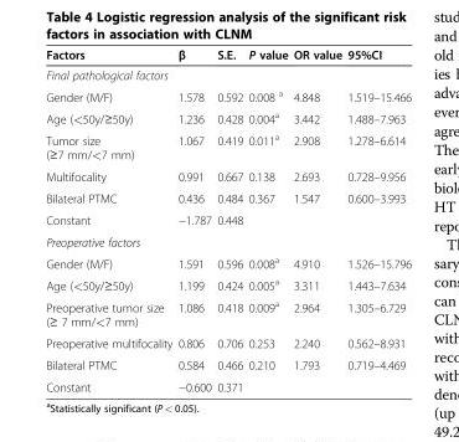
<table><thead><tr><td>Factors</td><td>β</td><td>S.E.</td><td>P value</td><td>OR value</td><td>95%CI</td></tr></thead><tbody><tr><td colspan="6">Final pathological factors</td></tr><tr><td>Gender (M/F)</td><td>1.578</td><td>0.592</td><td>0.008 <sup>a</sup></td><td>4.848</td><td>1.519–15.466</td></tr><tr><td>Age (&lt;50y/≥50y)</td><td>1.236</td><td>0.428</td><td>0.004<sup>a</sup></td><td>3.442</td><td>1.488–7.963</td></tr><tr><td>Tumor size (≥7 mm/&lt;7 mm)</td><td>1.067</td><td>0.419</td><td>0.011<sup>a</sup></td><td>2.908</td><td>1.278–6.614</td></tr><tr><td>Multifocality</td><td>0.991</td><td>0.667</td><td>0.138</td><td>2.693</td><td>0.728–9.956</td></tr><tr><td>Bilateral PTMC</td><td>0.436</td><td>0.484</td><td>0.367</td><td>1.547</td><td>0.600–3.993</td></tr><tr><td>Constant</td><td>−1.787</td><td>0.448</td><td></td><td></td><td></td></tr><tr><td colspan="6">Preoperative factors</td></tr><tr><td>Gender (M/F)</td><td>1.591</td><td>0.596</td><td>0.008<sup>a</sup></td><td>4.910</td><td>1.526–15.796</td></tr><tr><td>Age (&lt;50y/≥50y)</td><td>1.199</td><td>0.424</td><td>0.005<sup>a</sup></td><td>3.311</td><td>1.443–7.634</td></tr><tr><td>Preoperative tumor size (≥ 7 mm/&lt;7 mm)</td><td>1.086</td><td>0.418</td><td>0.009<sup>a</sup></td><td>2.964</td><td>1.305–6.729</td></tr><tr><td>Preoperative multifocality</td><td>0.806</td><td>0.706</td><td>0.253</td><td>2.240</td><td>0.562–8.931</td></tr><tr><td>Bilateral PTMC</td><td>0.584</td><td>0.466</td><td>0.210</td><td>1.793</td><td>0.719–4.469</td></tr><tr><td>Constant</td><td>−0.600</td><td>0.371</td><td></td><td></td><td></td></tr></tbody></table>